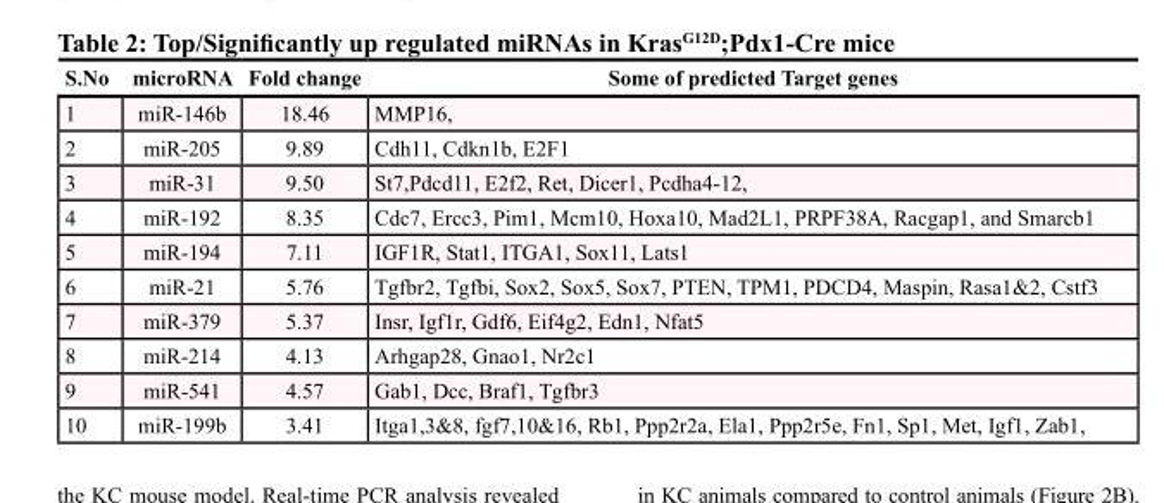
<table><thead><tr><td>S.No</td><td>microRNA</td><td>Fold change</td><td>Some of predicted Target genes</td></tr></thead><tbody><tr><td>1</td><td>miR-146b</td><td>18.46</td><td>MMP16,</td></tr><tr><td>2</td><td>miR-205</td><td>9.89</td><td>Cdh11, Cdkn1b, E2F1</td></tr><tr><td>3</td><td>miR-31</td><td>9.50</td><td>St7,Pdcd11, E2f2, Ret, Dicer1, Pcdha4-12,</td></tr><tr><td>4</td><td>miR-192</td><td>8.35</td><td>Cdc7, Ercc3, Pim1, Mcm10, Hoxa10, Mad2L1, PRPF38A, Racgap1, and Smarcb1</td></tr><tr><td>5</td><td>miR-194</td><td>7.11</td><td>IGF1R, Stat1, ITGA1, Sox11, Lats1</td></tr><tr><td>6</td><td>miR-21</td><td>5.76</td><td>Tgfbr2, Tgfbi, Sox2, Sox5, Sox7, PTEN, TPM1, PDCD4, Maspin, Rasa1&amp;2, Cstf3</td></tr><tr><td>7</td><td>miR-379</td><td>5.37</td><td>Insr, Igf1r, Gdf6, Eif4g2, Edn1, Nfat5</td></tr><tr><td>8</td><td>miR-214</td><td>4.13</td><td>Arhgap28, Gnao1, Nr2c1</td></tr><tr><td>9</td><td>miR-541</td><td>4.57</td><td>Gab1, Dcc, Braf1, Tgfbr3</td></tr><tr><td>10</td><td>miR-199b</td><td>3.41</td><td>Itga1,3&amp;8, fgf7,10&amp;16, Rb1, Ppp2r2a, Ela1, Ppp2r5e, Fn1, Sp1, Met, Igf1, Zab1,</td></tr></tbody></table>